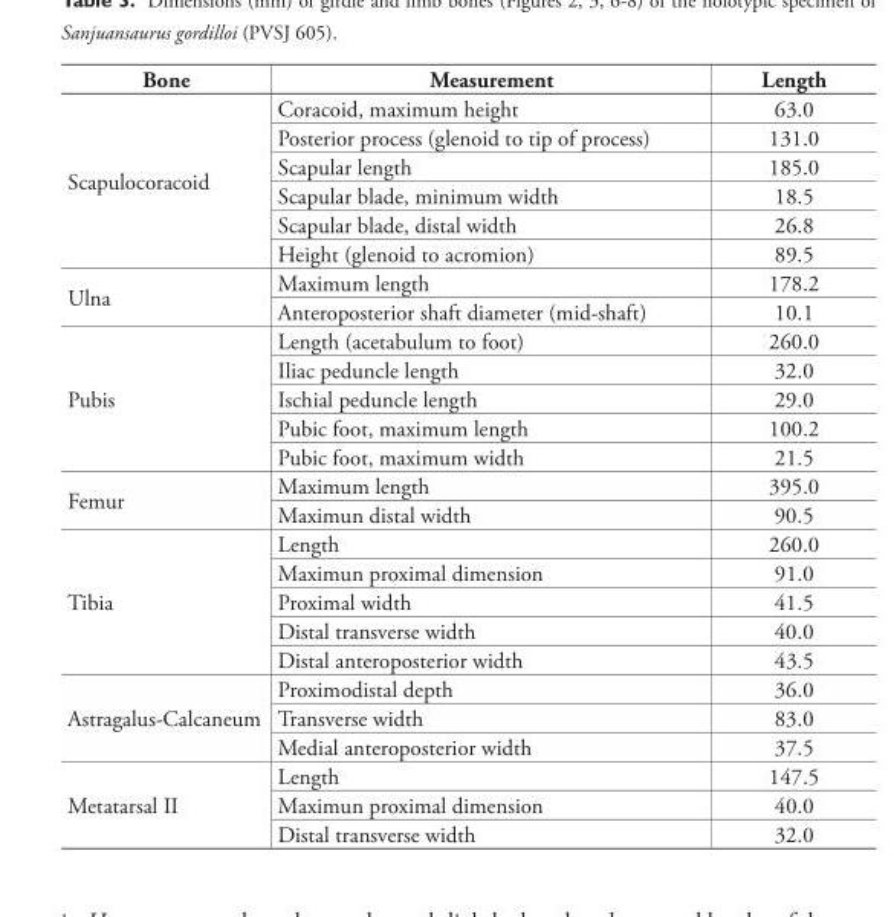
<table><thead><tr><td>Bone</td><td>Measurement</td><td>Length</td></tr></thead><tbody><tr><td rowspan="6">Scapulocoracoid</td><td>Coracoid, maximum height</td><td>63.0</td></tr><tr><td>Posterior process (glenoid to tip of process)</td><td>131.0</td></tr><tr><td>Scapular length</td><td>185.0</td></tr><tr><td>Scapular blade, minimum width</td><td>18.5</td></tr><tr><td>Scapular blade, distal width</td><td>26.8</td></tr><tr><td>Height (glenoid to acromion)</td><td>89.5</td></tr><tr><td rowspan="2">Ulna</td><td>Maximum length</td><td>178.2</td></tr><tr><td>Anteroposterior shaft diameter (mid-shaft)</td><td>10.1</td></tr><tr><td rowspan="5">Pubis</td><td>Length (acetabulum to foot)</td><td>260.0</td></tr><tr><td>Iliac peduncle length</td><td>32.0</td></tr><tr><td>Ischial peduncle length</td><td>29.0</td></tr><tr><td>Pubic foot, maximum length</td><td>100.2</td></tr><tr><td>Pubic foot, maximum width</td><td>21.5</td></tr><tr><td rowspan="2">Femur</td><td>Maximum length</td><td>395.0</td></tr><tr><td>Maximun distal width</td><td>90.5</td></tr><tr><td rowspan="5">Tibia</td><td>Length</td><td>260.0</td></tr><tr><td>Maximun proximal dimension</td><td>91.0</td></tr><tr><td>Proximal width</td><td>41.5</td></tr><tr><td>Distal transverse width</td><td>40.0</td></tr><tr><td>Distal anteroposterior width</td><td>43.5</td></tr><tr><td rowspan="3">Astragalus-Calcaneum</td><td>Proximodistal depth</td><td>36.0</td></tr><tr><td>Transverse width</td><td>83.0</td></tr><tr><td>Medial anteroposterior width</td><td>37.5</td></tr><tr><td rowspan="3">Metatarsal II</td><td>Length</td><td>147.5</td></tr><tr><td>Maximun proximal dimension</td><td>40.0</td></tr><tr><td>Distal transverse width</td><td>32.0</td></tr></tbody></table>